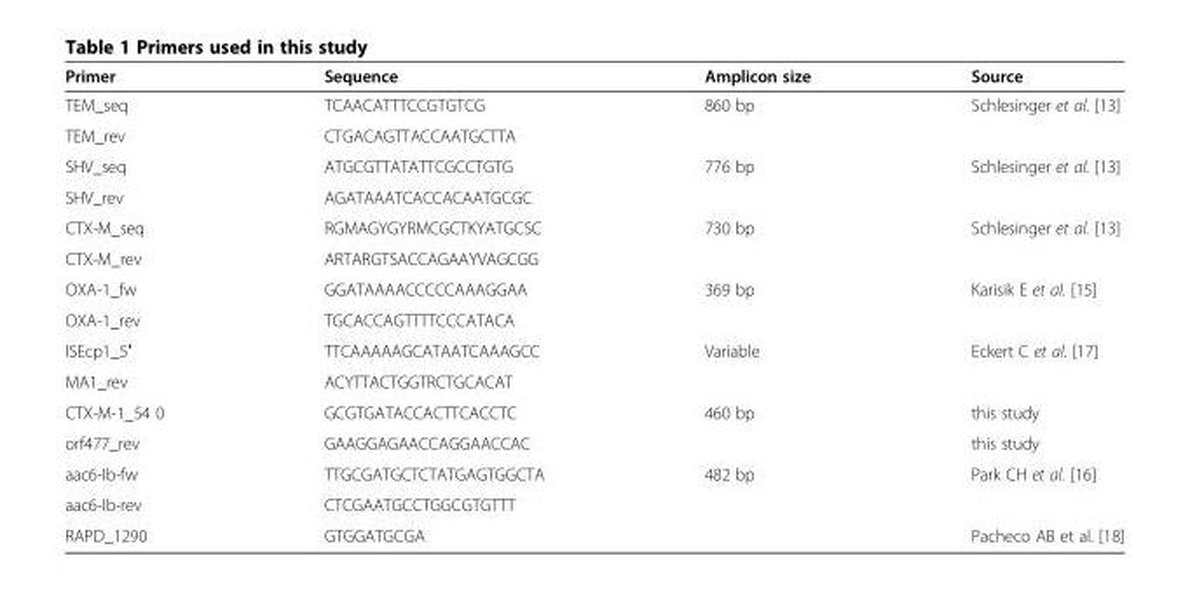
<table><thead><tr><td>Primer</td><td>Sequence</td><td>Amplicon size</td><td>Source</td></tr></thead><tbody><tr><td>TEM_seq</td><td>TCAACATTTCCGTGTCG</td><td>860 bp</td><td>Schlesinger et al. [13]</td></tr><tr><td>TEM_rev</td><td>CTGACAGTTACCAATGCTTA</td><td></td><td></td></tr><tr><td>SHV_seq</td><td>ATGCGTTATATTCGCCTGTG</td><td>776 bp</td><td>Schlesinger et al. [13]</td></tr><tr><td>SHV_rev</td><td>AGATAAATCACCACAATGCGC</td><td></td><td></td></tr><tr><td>CTX-M_seq</td><td>RGMAGYGYRMCGCTKYATGCSC</td><td>730 bp</td><td>Schlesinger et al. [13]</td></tr><tr><td>CTX-M_rev</td><td>ARTARGTSACCAGAAYVAGCGG</td><td></td><td></td></tr><tr><td>OXA-1_fw</td><td>GGATAAAACCCCCAAAGGAA</td><td>369 bp</td><td>Karisik E et al. [15]</td></tr><tr><td>OXA-1_rev</td><td>TGCACCAGTTTTCCCATACA</td><td></td><td></td></tr><tr><td>ISEcp1_5′</td><td>TTCAAAAAGCATAATCAAAGCC</td><td>Variable</td><td>Eckert C et al. [17]</td></tr><tr><td>MA1_rev</td><td>ACYTTACTGGTRCTGCACAT</td><td></td><td></td></tr><tr><td>CTX-M-1_54 0</td><td>GCGTGATACCACTTCACCTC</td><td>460 bp</td><td>this study</td></tr><tr><td>orf477_rev</td><td>GAAGGAGAACCAGGAACCAC</td><td></td><td>this study</td></tr><tr><td>aac6-Ib-fw</td><td>TTGCGATGCTCTATGAGTGGCTA</td><td>482 bp</td><td>Park CH et al. [16]</td></tr><tr><td>aac6-Ib-rev</td><td>CTCGAATGCCTGGCGTGTTT</td><td></td><td></td></tr><tr><td>RAPD_1290</td><td>GTGGATGCGA</td><td></td><td>Pacheco AB et al. [18]</td></tr></tbody></table>